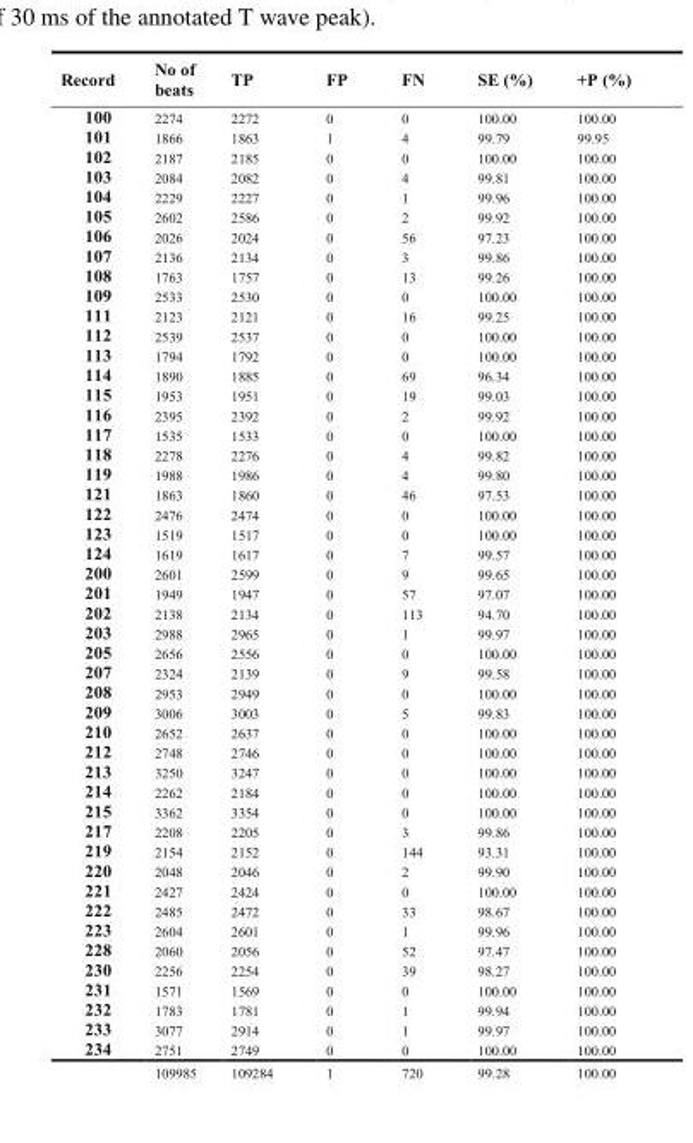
<table><thead><tr><td>Record</td><td>No of beats</td><td>TP</td><td>FP</td><td>FN</td><td>SE (%)</td><td>+P (%)</td></tr></thead><tbody><tr><td>100</td><td>2274</td><td>2272</td><td>0</td><td>0</td><td>100.00</td><td>100.00</td></tr><tr><td>101</td><td>1866</td><td>1863</td><td>1</td><td>4</td><td>99.79</td><td>99.95</td></tr><tr><td>102</td><td>2187</td><td>2185</td><td>0</td><td>0</td><td>100.00</td><td>100.00</td></tr><tr><td>103</td><td>2084</td><td>2082</td><td>0</td><td>4</td><td>99.81</td><td>100.00</td></tr><tr><td>104</td><td>2229</td><td>2227</td><td>0</td><td>1</td><td>99.96</td><td>100.00</td></tr><tr><td>105</td><td>2602</td><td>2586</td><td>0</td><td>2</td><td>99.92</td><td>100.00</td></tr><tr><td>106</td><td>2026</td><td>2024</td><td>0</td><td>56</td><td>97.23</td><td>100.00</td></tr><tr><td>107</td><td>2136</td><td>2134</td><td>0</td><td>3</td><td>99.86</td><td>100.00</td></tr><tr><td>108</td><td>1763</td><td>1757</td><td>0</td><td>13</td><td>99.26</td><td>100.00</td></tr><tr><td>109</td><td>2533</td><td>2530</td><td>0</td><td>0</td><td>100.00</td><td>100.00</td></tr><tr><td>111</td><td>2123</td><td>2121</td><td>0</td><td>16</td><td>99.25</td><td>100.00</td></tr><tr><td>112</td><td>2539</td><td>2537</td><td>0</td><td>0</td><td>100.00</td><td>100.00</td></tr><tr><td>113</td><td>1794</td><td>1792</td><td>0</td><td>0</td><td>100.00</td><td>100.00</td></tr><tr><td>114</td><td>1890</td><td>1885</td><td>0</td><td>69</td><td>96.34</td><td>100.00</td></tr><tr><td>115</td><td>1953</td><td>1951</td><td>0</td><td>19</td><td>99.03</td><td>100.00</td></tr><tr><td>116</td><td>2395</td><td>2392</td><td>0</td><td>2</td><td>99.92</td><td>100.00</td></tr><tr><td>117</td><td>1535</td><td>1533</td><td>0</td><td>0</td><td>100.00</td><td>100.00</td></tr><tr><td>118</td><td>2278</td><td>2276</td><td>0</td><td>4</td><td>99.82</td><td>100.00</td></tr><tr><td>119</td><td>1988</td><td>1986</td><td>0</td><td>4</td><td>99.80</td><td>100.00</td></tr><tr><td>121</td><td>1863</td><td>1860</td><td>0</td><td>46</td><td>97.53</td><td>100.00</td></tr><tr><td>122</td><td>2476</td><td>2474</td><td>0</td><td>0</td><td>100.00</td><td>100.00</td></tr><tr><td>123</td><td>1519</td><td>1517</td><td>0</td><td>0</td><td>100.00</td><td>100.00</td></tr><tr><td>124</td><td>1619</td><td>1617</td><td>0</td><td>7</td><td>99.57</td><td>100.00</td></tr><tr><td>200</td><td>2601</td><td>2599</td><td>0</td><td>9</td><td>99.65</td><td>100.00</td></tr><tr><td>201</td><td>1949</td><td>1947</td><td>0</td><td>57</td><td>97.07</td><td>100.00</td></tr><tr><td>202</td><td>2138</td><td>2134</td><td>0</td><td>113</td><td>94.70</td><td>100.00</td></tr><tr><td>203</td><td>2988</td><td>2965</td><td>0</td><td>1</td><td>99.97</td><td>100.00</td></tr><tr><td>205</td><td>2656</td><td>2556</td><td>0</td><td>0</td><td>100.00</td><td>100.00</td></tr><tr><td>207</td><td>2324</td><td>2139</td><td>0</td><td>9</td><td>99.58</td><td>100.00</td></tr><tr><td>208</td><td>2953</td><td>2949</td><td>0</td><td>0</td><td>100.00</td><td>100.00</td></tr><tr><td>209</td><td>3006</td><td>3003</td><td>0</td><td>5</td><td>99.83</td><td>100.00</td></tr><tr><td>210</td><td>2652</td><td>2637</td><td>0</td><td>0</td><td>100.00</td><td>100.00</td></tr><tr><td>212</td><td>2748</td><td>2746</td><td>0</td><td>0</td><td>100.00</td><td>100.00</td></tr><tr><td>213</td><td>3250</td><td>3247</td><td>0</td><td>0</td><td>100.00</td><td>100.00</td></tr><tr><td>214</td><td>2262</td><td>2184</td><td>0</td><td>0</td><td>100.00</td><td>100.00</td></tr><tr><td>215</td><td>3362</td><td>3354</td><td>0</td><td>0</td><td>100.00</td><td>100.00</td></tr><tr><td>217</td><td>2208</td><td>2205</td><td>0</td><td>3</td><td>99.86</td><td>100.00</td></tr><tr><td>219</td><td>2154</td><td>2152</td><td>0</td><td>144</td><td>93.31</td><td>100.00</td></tr><tr><td>220</td><td>2048</td><td>2046</td><td>0</td><td>2</td><td>99.90</td><td>100.00</td></tr><tr><td>221</td><td>2427</td><td>2424</td><td>0</td><td>0</td><td>100.00</td><td>100.00</td></tr><tr><td>222</td><td>2485</td><td>2472</td><td>0</td><td>33</td><td>98.67</td><td>100.00</td></tr><tr><td>223</td><td>2604</td><td>2601</td><td>0</td><td>1</td><td>99.96</td><td>100.00</td></tr><tr><td>228</td><td>2060</td><td>2056</td><td>0</td><td>52</td><td>97.47</td><td>100.00</td></tr><tr><td>230</td><td>2256</td><td>2254</td><td>0</td><td>39</td><td>98.27</td><td>100.00</td></tr><tr><td>231</td><td>1571</td><td>1569</td><td>0</td><td>0</td><td>100.00</td><td>100.00</td></tr><tr><td>232</td><td>1783</td><td>1781</td><td>0</td><td>1</td><td>99.94</td><td>100.00</td></tr><tr><td>233</td><td>3077</td><td>2914</td><td>0</td><td>1</td><td>99.97</td><td>100.00</td></tr><tr><td rowspan="2">234</td><td>2751</td><td>2749</td><td>0</td><td>0</td><td>100.00</td><td>100.00</td></tr><tr><td>109985</td><td>109284</td><td>1</td><td>720</td><td>99.28</td><td>100.00</td></tr></tbody></table>